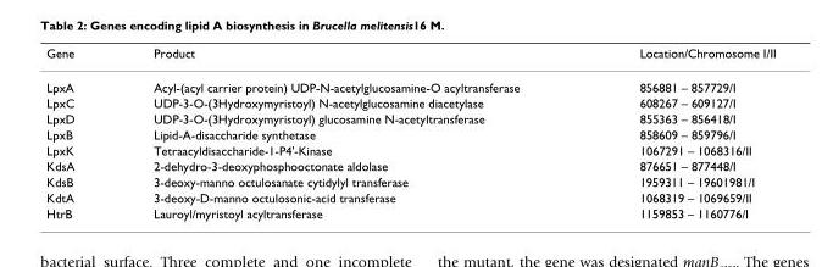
<table><thead><tr><td>Gene</td><td>Product</td><td>Location/Chromosome I/II</td></tr></thead><tbody><tr><td>LpxA</td><td>Acyl-(acyl carrier protein) UDP-N-acetylglucosamine-O acyltransferase</td><td>856881 – 857729/I</td></tr><tr><td>LpxC</td><td>UDP-3-O-(3Hydroxymyristoyl) N-acetylglucosamine diacetylase</td><td>608267 – 609127/I</td></tr><tr><td>LpxD</td><td>UDP-3-O-(3Hydroxymyristoyl) glucosamine N-acetyltransferase</td><td>855363 – 856418/I</td></tr><tr><td>LpxB</td><td>Lipid-A-disaccharide synthetase</td><td>858609 – 859796/I</td></tr><tr><td>LpxK</td><td>Tetraacyldisaccharide-1-P4&#x27;-Kinase</td><td>1067291 – 1068316/II</td></tr><tr><td>KdsA</td><td>2-dehydro-3-deoxyphosphooctonate aldolase</td><td>876651 – 877448/I</td></tr><tr><td>KdsB</td><td>3-deoxy-manno octulosanate cytidylyl transferase</td><td>1959311 – 19601981/I</td></tr><tr><td>KdtA</td><td>3-deoxy-D-manno octulosonic-acid transferase</td><td>1068319 – 1069659/II</td></tr><tr><td>HtrB</td><td>Lauroyl/myristoyl acyltransferase</td><td>1159853 – 1160776/I</td></tr></tbody></table>